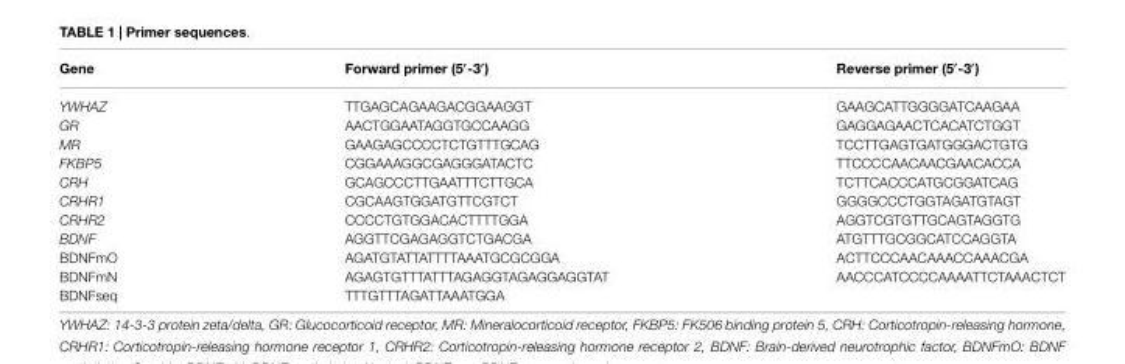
<table><thead><tr><td>Gene</td><td>Forward primer (5′-3′)</td><td>Reverse primer (5′-3′)</td></tr></thead><tbody><tr><td>YWHAZ</td><td>TTGAGCAGAAGACGGAAGGT</td><td>GAAGCATTGGGGATCAAGAA</td></tr><tr><td>GR</td><td>AACTGGAATAGGTGCCAAGG</td><td>GAGGAGAACTCACATCTGGT</td></tr><tr><td>MR</td><td>GAAGAGCCCCTCTGTTTGCAG</td><td>TCCTTGAGTGATGGGACTGTG</td></tr><tr><td>FKBP5</td><td>CGGAAAGGCGAGGGATACTC</td><td>TTCCCCAACAACGAACACCA</td></tr><tr><td>CRH</td><td>GCAGCCCTTGAATTTCTTGCA</td><td>TCTTCACCCATGCGGATCAG</td></tr><tr><td>CRHR1</td><td>CGCAAGTGGATGTTCGTCT</td><td>GGGGCCCTGGTAGATGTAGT</td></tr><tr><td>CRHR2</td><td>CCCCTGTGGACACTTTTGGA</td><td>AGGTCGTGTTGCAGTAGGTG</td></tr><tr><td>BDNF</td><td>AGGTTCGAGAGGTCTGACGA</td><td>ATGTTTGCGGCATCCAGGTA</td></tr><tr><td>BDNFmO</td><td>AGATGTATTATTTTAAATGCGCGGA</td><td>ACTTCCCAACAAACCAAACGA</td></tr><tr><td>BDNFmN</td><td>AGAGTGTTTATTTAGAGGTAGAGGAGGTAT</td><td>AACCCATCCCCAAAATTCTAAACTCT</td></tr><tr><td>BDNFseq</td><td>TTTGTTTAGATTAAATGGA</td><td></td></tr></tbody></table>